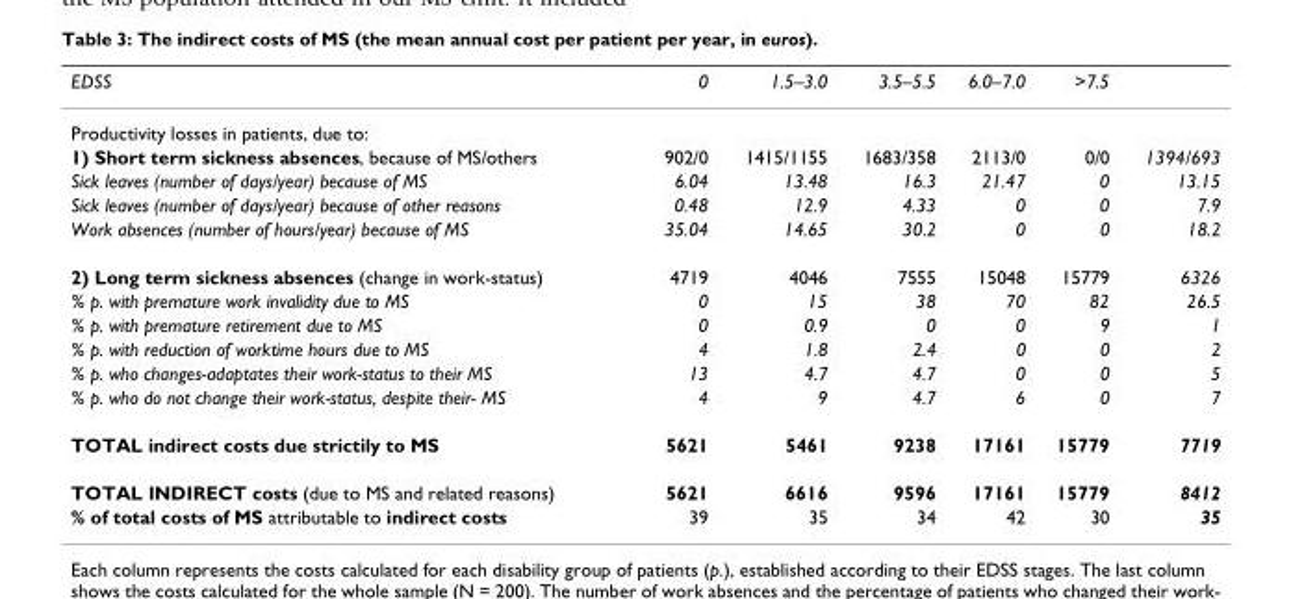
<table><thead><tr><td>EDSS</td><td>0</td><td>1.5–3.0</td><td>3.5–5.5</td><td>6.0–7.0</td><td>&gt;7.5</td><td></td></tr></thead><tbody><tr><td colspan="7">Productivity losses in patients, due to:</td></tr><tr><td>1) Short term sickness absences, because of MS/others</td><td>902/0</td><td>1415/1155</td><td>1683/358</td><td>2113/0</td><td>0/0</td><td>1394/693</td></tr><tr><td>Sick leaves (number of days/year) because of MS</td><td>6.04</td><td>13.48</td><td>16.3</td><td>21.47</td><td>0</td><td>13.15</td></tr><tr><td>Sick leaves (number of days/year) because of other reasons</td><td>0.48</td><td>12.9</td><td>4.33</td><td>0</td><td>0</td><td>7.9</td></tr><tr><td>Work absences (number of hours/year) because of MS</td><td>35.04</td><td>14.65</td><td>30.2</td><td>0</td><td>0</td><td>18.2</td></tr><tr><td>2) Long term sickness absences (change in work-status)</td><td>4719</td><td>4046</td><td>7555</td><td>15048</td><td>15779</td><td>6326</td></tr><tr><td>% p. with premature work invalidity due to MS</td><td>0</td><td>15</td><td>38</td><td>70</td><td>82</td><td>26.5</td></tr><tr><td>% p. with premature retirement due to MS</td><td>0</td><td>0.9</td><td>0</td><td>0</td><td>9</td><td>1</td></tr><tr><td>% p. with reduction of worktime hours due to MS</td><td>4</td><td>1.8</td><td>2.4</td><td>0</td><td>0</td><td>2</td></tr><tr><td>% p. who changes-adaptates their work-status to their MS</td><td>13</td><td>4.7</td><td>4.7</td><td>0</td><td>0</td><td>5</td></tr><tr><td>% p. who do not change their work-status, despite their- MS</td><td>4</td><td>9</td><td>4.7</td><td>6</td><td>0</td><td>7</td></tr><tr><td>TOTAL indirect costs due strictily to MS</td><td>5621</td><td>5461</td><td>9238</td><td>17161</td><td>15779</td><td>7719</td></tr><tr><td>TOTAL INDIRECT costs (due to MS and related reasons)</td><td>5621</td><td>6616</td><td>9596</td><td>17161</td><td>15779</td><td>8412</td></tr><tr><td>% of total costs of MS attributable to indirect costs</td><td>39</td><td>35</td><td>34</td><td>42</td><td>30</td><td>35</td></tr></tbody></table>